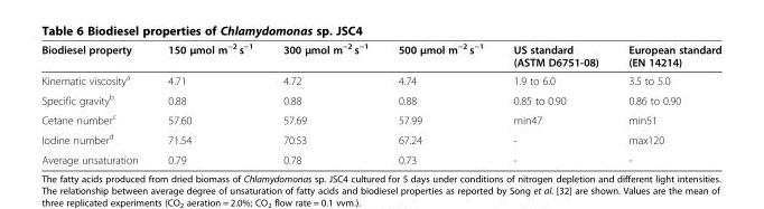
<table><thead><tr><td>Biodiesel property</td><td>150 μmol m<sup>−2</sup> s<sup>−1</sup></td><td>300 μmol m<sup>−2</sup> s<sup>−1</sup></td><td>500 μmol m<sup>−2</sup> s<sup>−1</sup></td><td>US standard (ASTM D6751-08)</td><td>European standard (EN 14214)</td></tr></thead><tbody><tr><td>Kinematic viscosity<sup>a</sup></td><td>4.71</td><td>4.72</td><td>4.74</td><td>1.9 to 6.0</td><td>3.5 to 5.0</td></tr><tr><td>Specific gravity<sup>b</sup></td><td>0.88</td><td>0.88</td><td>0.88</td><td>0.85 to 0.90</td><td>0.86 to 0.90</td></tr><tr><td>Cetane number<sup>c</sup></td><td>57.60</td><td>57.69</td><td>57.99</td><td>min47</td><td>min51</td></tr><tr><td>Iodine number<sup>d</sup></td><td>71.54</td><td>70.53</td><td>67.24</td><td>-</td><td>max120</td></tr><tr><td>Average unsaturation</td><td>0.79</td><td>0.78</td><td>0.73</td><td>-</td><td>-</td></tr></tbody></table>